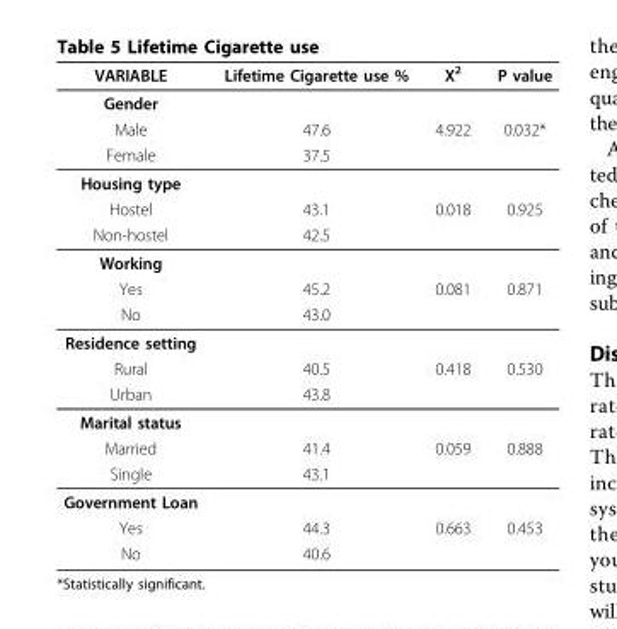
<table><thead><tr><td>VARIABLE</td><td>Lifetime Cigarette use %</td><td>X<sup>2</sup></td><td>P value</td></tr></thead><tbody><tr><td colspan="4">Gender</td></tr><tr><td>Male</td><td>47.6</td><td>4.922</td><td>0.032*</td></tr><tr><td>Female</td><td>37.5</td><td></td><td></td></tr><tr><td colspan="4">Housing type</td></tr><tr><td>Hostel</td><td>43.1</td><td>0.018</td><td>0.925</td></tr><tr><td>Non-hostel</td><td>42.5</td><td></td><td></td></tr><tr><td colspan="4">Working</td></tr><tr><td>Yes</td><td>45.2</td><td>0.081</td><td>0.871</td></tr><tr><td>No</td><td>43.0</td><td></td><td></td></tr><tr><td colspan="4">Residence setting</td></tr><tr><td>Rural</td><td>40.5</td><td>0.418</td><td>0.530</td></tr><tr><td>Urban</td><td>43.8</td><td></td><td></td></tr><tr><td colspan="4">Marital status</td></tr><tr><td>Married</td><td>41.4</td><td>0.059</td><td>0.888</td></tr><tr><td>Single</td><td>43.1</td><td></td><td></td></tr><tr><td colspan="4">Government Loan</td></tr><tr><td>Yes</td><td>44.3</td><td>0.663</td><td>0.453</td></tr><tr><td>No</td><td>40.6</td><td></td><td></td></tr></tbody></table>